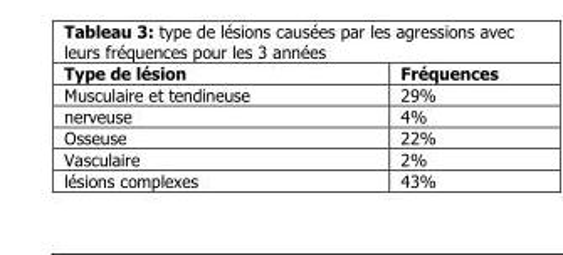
<table><thead><tr><td>Type de lésion</td><td>Fréquences</td></tr></thead><tbody><tr><td>Musculaire et tendineuse</td><td>29%</td></tr><tr><td>nerveuse</td><td>4%</td></tr><tr><td>Osseuse</td><td>22%</td></tr><tr><td>Vasculaire</td><td>2%</td></tr><tr><td>lésions complexes</td><td>43%</td></tr></tbody></table>